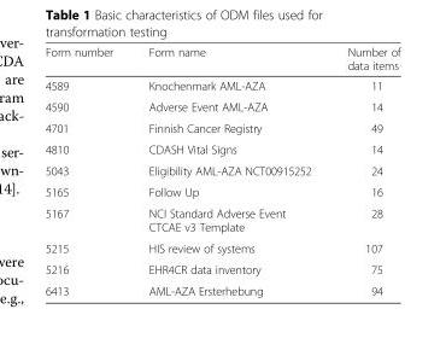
<table><thead><tr><td>Form number</td><td>Form name</td><td>Number of data items</td></tr></thead><tbody><tr><td>4589</td><td>Knochenmark AML-AZA</td><td>11</td></tr><tr><td>4590</td><td>Adverse Event AML-AZA</td><td>14</td></tr><tr><td>4701</td><td>Finnish Cancer Registry</td><td>49</td></tr><tr><td>4810</td><td>CDASH Vital Signs</td><td>14</td></tr><tr><td>5043</td><td>Eligibility AML-AZA NCT00915252</td><td>24</td></tr><tr><td>5165</td><td>Follow Up</td><td>16</td></tr><tr><td>5167</td><td>NCI Standard Adverse Event CTCAE v3 Template</td><td>28</td></tr><tr><td>5215</td><td>HIS review of systems</td><td>107</td></tr><tr><td>5216</td><td>EHR4CR data inventory</td><td>75</td></tr><tr><td>6413</td><td>AML-AZA Ersterhebung</td><td>94</td></tr></tbody></table>